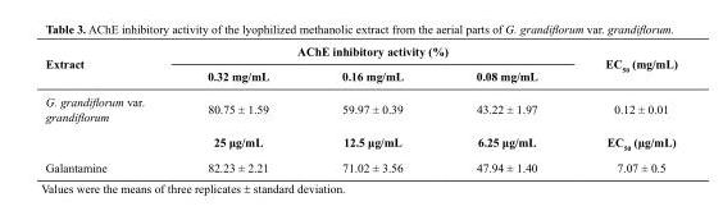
<table><thead><tr><td rowspan="2">Extract</td><td colspan="3">AChE inhibitory activity (%)</td><td rowspan="2">EC<sub>50</sub> (mg/mL)</td></tr><tr><td>0.32 mg/mL</td><td>0.16 mg/mL</td><td>0.08 mg/mL</td></tr></thead><tbody><tr><td rowspan="2">G. grandiflorum var. grandiflorum</td><td>80.75 ± 1.59</td><td>59.97 ± 0.39</td><td>43.22 ± 1.97</td><td>0.12 ± 0.01</td></tr><tr><td>25 μg/mL</td><td>12.5 μg/mL</td><td>6.25 μg/mL</td><td>EC<sub>50</sub> (μg/mL)</td></tr><tr><td>Galantamine</td><td>82.23 ± 2.21</td><td>71.02 ± 3.56</td><td>47.94 ± 1.40</td><td>7.07 ± 0.5</td></tr></tbody></table>